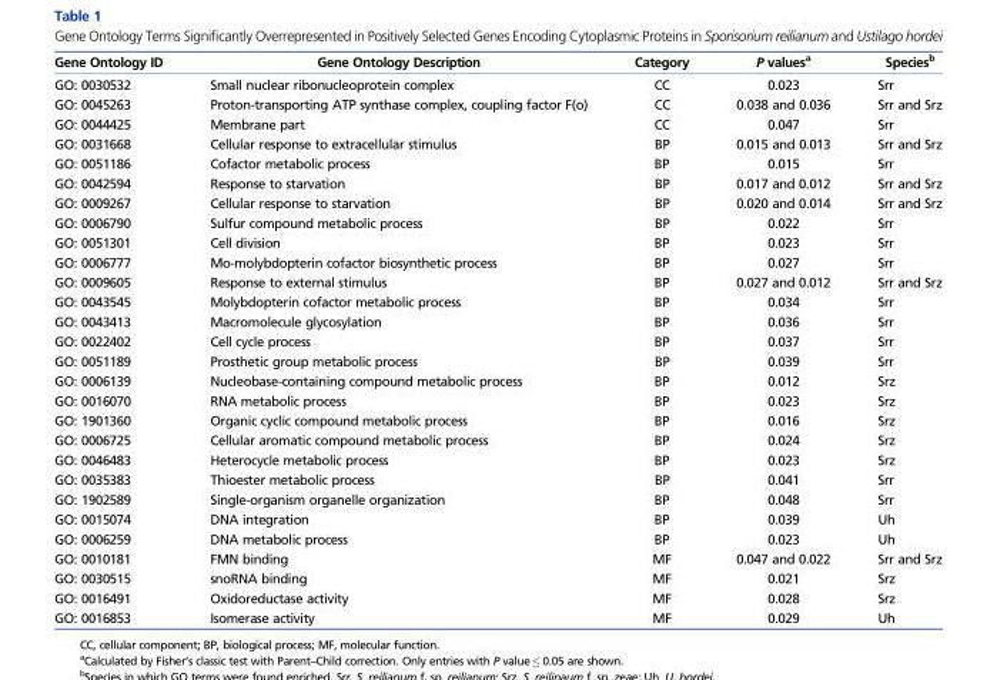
<table><thead><tr><td>Gene Ontology ID</td><td>Gene Ontology Description</td><td>Category</td><td>P values<sup>a</sup></td><td>Species<sup>b</sup></td></tr></thead><tbody><tr><td>GO: 0030532</td><td>Small nuclear ribonucleoprotein complex</td><td>CC</td><td>0.023</td><td>Srr</td></tr><tr><td>GO: 0045263</td><td>Proton-transporting ATP synthase complex, coupling factor F(o)</td><td>CC</td><td>0.038 and 0.036</td><td>Srr and Srz</td></tr><tr><td>GO: 0044425</td><td>Membrane part</td><td>CC</td><td>0.047</td><td>Srr</td></tr><tr><td>GO: 0031668</td><td>Cellular response to extracellular stimulus</td><td>BP</td><td>0.015 and 0.013</td><td>Srr and Srz</td></tr><tr><td>GO: 0051186</td><td>Cofactor metabolic process</td><td>BP</td><td>0.015</td><td>Srr</td></tr><tr><td>GO: 0042594</td><td>Response to starvation</td><td>BP</td><td>0.017 and 0.012</td><td>Srr and Srz</td></tr><tr><td>GO: 0009267</td><td>Cellular response to starvation</td><td>BP</td><td>0.020 and 0.014</td><td>Srr and Srz</td></tr><tr><td>GO: 0006790</td><td>Sulfur compound metabolic process</td><td>BP</td><td>0.022</td><td>Srr</td></tr><tr><td>GO: 0051301</td><td>Cell division</td><td>BP</td><td>0.023</td><td>Srr</td></tr><tr><td>GO: 0006777</td><td>Mo-molybdopterin cofactor biosynthetic process</td><td>BP</td><td>0.027</td><td>Srr</td></tr><tr><td>GO: 0009605</td><td>Response to external stimulus</td><td>BP</td><td>0.027 and 0.012</td><td>Srr and Srz</td></tr><tr><td>GO: 0043545</td><td>Molybdopterin cofactor metabolic process</td><td>BP</td><td>0.034</td><td>Srr</td></tr><tr><td>GO: 0043413</td><td>Macromolecule glycosylation</td><td>BP</td><td>0.036</td><td>Srr</td></tr><tr><td>GO: 0022402</td><td>Cell cycle process</td><td>BP</td><td>0.037</td><td>Srr</td></tr><tr><td>GO: 0051189</td><td>Prosthetic group metabolic process</td><td>BP</td><td>0.039</td><td>Srr</td></tr><tr><td>GO: 0006139</td><td>Nucleobase-containing compound metabolic process</td><td>BP</td><td>0.012</td><td>Srz</td></tr><tr><td>GO: 0016070</td><td>RNA metabolic process</td><td>BP</td><td>0.023</td><td>Srz</td></tr><tr><td>GO: 1901360</td><td>Organic cyclic compound metabolic process</td><td>BP</td><td>0.016</td><td>Srz</td></tr><tr><td>GO: 0006725</td><td>Cellular aromatic compound metabolic process</td><td>BP</td><td>0.024</td><td>Srz</td></tr><tr><td>GO: 0046483</td><td>Heterocycle metabolic process</td><td>BP</td><td>0.023</td><td>Srz</td></tr><tr><td>GO: 0035383</td><td>Thioester metabolic process</td><td>BP</td><td>0.041</td><td>Srr</td></tr><tr><td>GO: 1902589</td><td>Single-organism organelle organization</td><td>BP</td><td>0.048</td><td>Srr</td></tr><tr><td>GO: 0015074</td><td>DNA integration</td><td>BP</td><td>0.039</td><td>Uh</td></tr><tr><td>GO: 0006259</td><td>DNA metabolic process</td><td>BP</td><td>0.023</td><td>Uh</td></tr><tr><td>GO: 0010181</td><td>FMN binding</td><td>MF</td><td>0.047 and 0.022</td><td>Srr and Srz</td></tr><tr><td>GO: 0030515</td><td>snoRNA binding</td><td>MF</td><td>0.021</td><td>Srz</td></tr><tr><td>GO: 0016491</td><td>Oxidoreductase activity</td><td>MF</td><td>0.028</td><td>Srz</td></tr><tr><td>GO: 0016853</td><td>Isomerase activity</td><td>MF</td><td>0.029</td><td>Uh</td></tr></tbody></table>